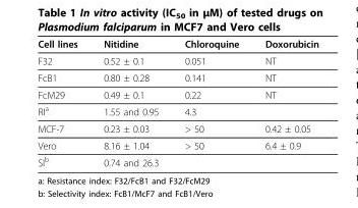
<table><thead><tr><td>Cell lines</td><td>Nitidine</td><td>Chloroquine</td><td>Doxorubicin</td></tr></thead><tbody><tr><td>F32</td><td>0.52 ± 0.1</td><td>0.051</td><td>NT</td></tr><tr><td>FcB1</td><td>0.80 ± 0.28</td><td>0.141</td><td>NT</td></tr><tr><td>FcM29</td><td>0.49 ± 0.1</td><td>0.22</td><td>NT</td></tr><tr><td>RI<sup>a</sup></td><td>1.55 and 0.95</td><td>4.3</td><td></td></tr><tr><td>MCF-7</td><td>0.23 ± 0.03</td><td>&gt; 50</td><td>0.42 ± 0.05</td></tr><tr><td>Vero</td><td>8.16 ± 1.04</td><td>&gt; 50</td><td>6.4 ± 0.9</td></tr><tr><td>SI<sup>b</sup></td><td>0.74 and 26.3</td><td></td><td></td></tr></tbody></table>